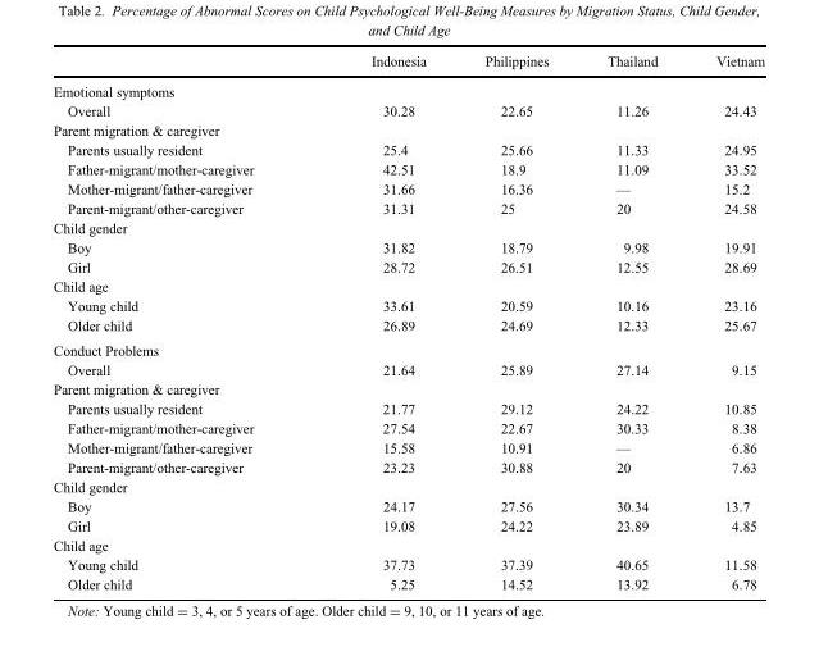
<table><thead><tr><td></td><td>Indonesia</td><td>Philippines</td><td>Thailand</td><td>Vietnam</td></tr></thead><tbody><tr><td colspan="5">Emotional symptoms</td></tr><tr><td>Overall</td><td>30.28</td><td>22.65</td><td>11.26</td><td>24.43</td></tr><tr><td colspan="5">Parent migration &amp; caregiver</td></tr><tr><td>Parents usually resident</td><td>25.4</td><td>25.66</td><td>11.33</td><td>24.95</td></tr><tr><td>Father-migrant/mother-caregiver</td><td>42.51</td><td>18.9</td><td>11.09</td><td>33.52</td></tr><tr><td>Mother-migrant/father-caregiver</td><td>31.66</td><td>16.36</td><td>—</td><td>15.2</td></tr><tr><td>Parent-migrant/other-caregiver</td><td>31.31</td><td>25</td><td>20</td><td>24.58</td></tr><tr><td colspan="5">Child gender</td></tr><tr><td>Boy</td><td>31.82</td><td>18.79</td><td>9.98</td><td>19.91</td></tr><tr><td>Girl</td><td>28.72</td><td>26.51</td><td>12.55</td><td>28.69</td></tr><tr><td colspan="5">Child age</td></tr><tr><td>Young child</td><td>33.61</td><td>20.59</td><td>10.16</td><td>23.16</td></tr><tr><td>Older child</td><td>26.89</td><td>24.69</td><td>12.33</td><td>25.67</td></tr><tr><td colspan="5">Conduct Problems</td></tr><tr><td>Overall</td><td>21.64</td><td>25.89</td><td>27.14</td><td>9.15</td></tr><tr><td colspan="5">Parent migration &amp; caregiver</td></tr><tr><td>Parents usually resident</td><td>21.77</td><td>29.12</td><td>24.22</td><td>10.85</td></tr><tr><td>Father-migrant/mother-caregiver</td><td>27.54</td><td>22.67</td><td>30.33</td><td>8.38</td></tr><tr><td>Mother-migrant/father-caregiver</td><td>15.58</td><td>10.91</td><td>—</td><td>6.86</td></tr><tr><td>Parent-migrant/other-caregiver</td><td>23.23</td><td>30.88</td><td>20</td><td>7.63</td></tr><tr><td colspan="5">Child gender</td></tr><tr><td>Boy</td><td>24.17</td><td>27.56</td><td>30.34</td><td>13.7</td></tr><tr><td>Girl</td><td>19.08</td><td>24.22</td><td>23.89</td><td>4.85</td></tr><tr><td colspan="5">Child age</td></tr><tr><td>Young child</td><td>37.73</td><td>37.39</td><td>40.65</td><td>11.58</td></tr><tr><td>Older child</td><td>5.25</td><td>14.52</td><td>13.92</td><td>6.78</td></tr></tbody></table>